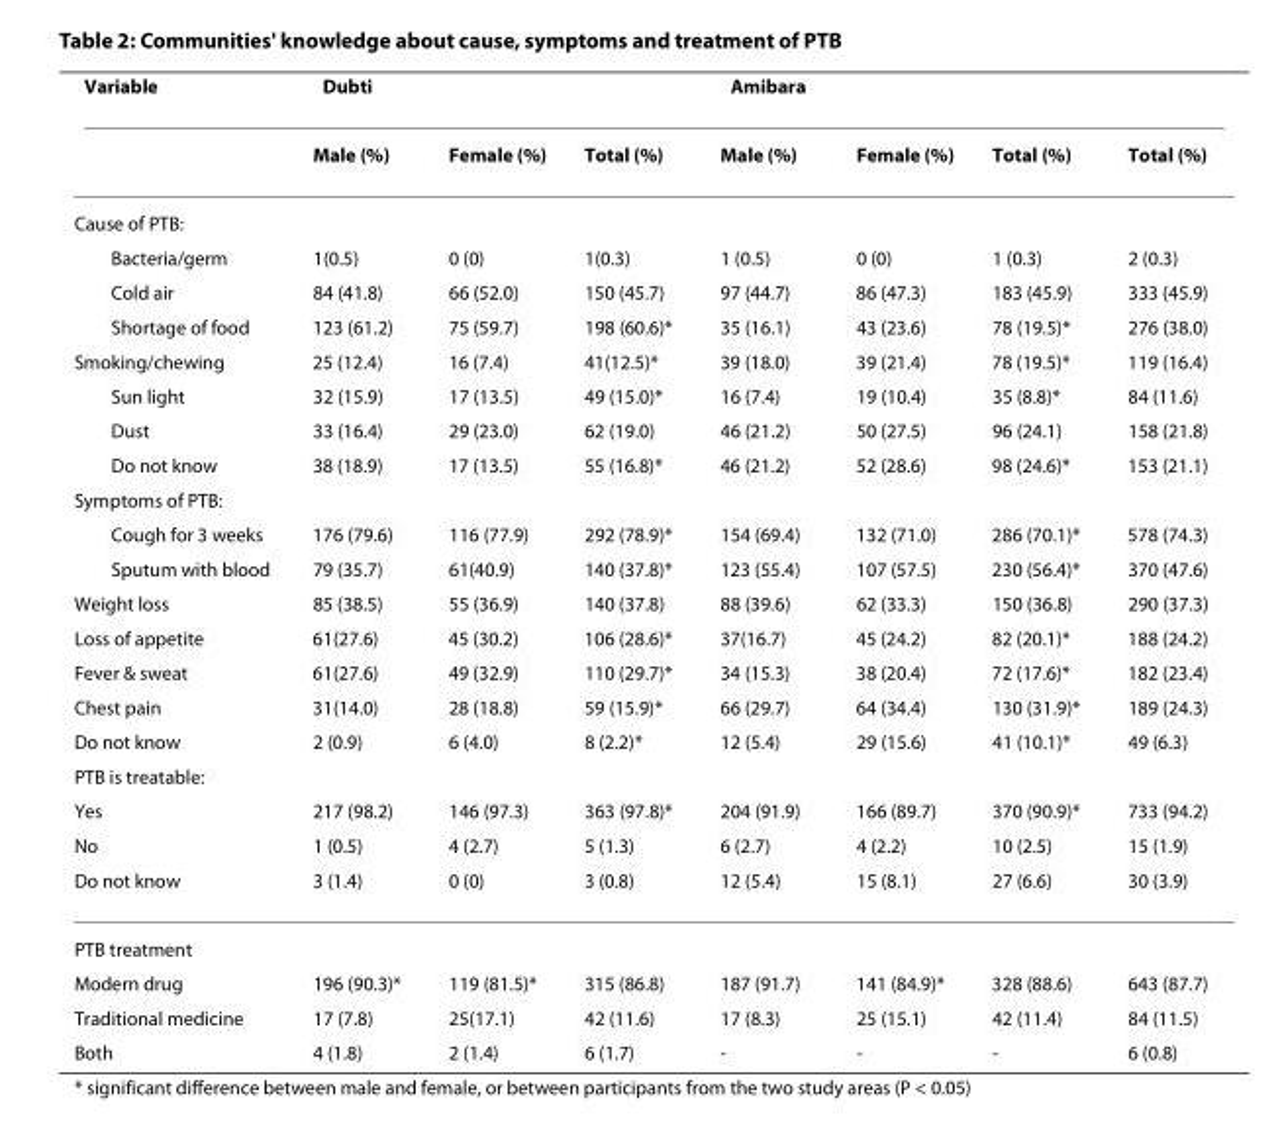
<table><thead><tr><td rowspan="2">Variable</td><td colspan="3">Dubti</td><td colspan="3">Amibara</td><td rowspan="2">Total (%)</td></tr><tr><td>Male (%)</td><td>Female (%)</td><td>Total (%)</td><td>Male (%)</td><td>Female (%)</td><td>Total (%)</td></tr></thead><tbody><tr><td colspan="8">Cause of PTB:</td></tr><tr><td>Bacteria/germ</td><td>1(0.5)</td><td>0 (0)</td><td>1(0.3)</td><td>1 (0.5)</td><td>0 (0)</td><td>1 (0.3)</td><td>2 (0.3)</td></tr><tr><td>Cold air</td><td>84 (41.8)</td><td>66 (52.0)</td><td>150 (45.7)</td><td>97 (44.7)</td><td>86 (47.3)</td><td>183 (45.9)</td><td>333 (45.9)</td></tr><tr><td>Shortage of food</td><td>123 (61.2)</td><td>75 (59.7)</td><td>198 (60.6)*</td><td>35 (16.1)</td><td>43 (23.6)</td><td>78 (19.5)*</td><td>276 (38.0)</td></tr><tr><td>Smoking/chewing</td><td>25 (12.4)</td><td>16 (7.4)</td><td>41(12.5)*</td><td>39 (18.0)</td><td>39 (21.4)</td><td>78 (19.5)*</td><td>119 (16.4)</td></tr><tr><td>Sun light</td><td>32 (15.9)</td><td>17 (13.5)</td><td>49 (15.0)*</td><td>16 (7.4)</td><td>19 (10.4)</td><td>35 (8.8)*</td><td>84 (11.6)</td></tr><tr><td>Dust</td><td>33 (16.4)</td><td>29 (23.0)</td><td>62 (19.0)</td><td>46 (21.2)</td><td>50 (27.5)</td><td>96 (24.1)</td><td>158 (21.8)</td></tr><tr><td>Do not know</td><td>38 (18.9)</td><td>17 (13.5)</td><td>55 (16.8)*</td><td>46 (21.2)</td><td>52 (28.6)</td><td>98 (24.6)*</td><td>153 (21.1)</td></tr><tr><td colspan="8">Symptoms of PTB:</td></tr><tr><td>Cough for 3 weeks</td><td>176 (79.6)</td><td>116 (77.9)</td><td>292 (78.9)*</td><td>154 (69.4)</td><td>132 (71.0)</td><td>286 (70.1)*</td><td>578 (74.3)</td></tr><tr><td>Sputum with blood</td><td>79 (35.7)</td><td>61(40.9)</td><td>140 (37.8)*</td><td>123 (55.4)</td><td>107 (57.5)</td><td>230 (56.4)*</td><td>370 (47.6)</td></tr><tr><td>Weight loss</td><td>85 (38.5)</td><td>55 (36.9)</td><td>140 (37.8)</td><td>88 (39.6)</td><td>62 (33.3)</td><td>150 (36.8)</td><td>290 (37.3)</td></tr><tr><td>Loss of appetite</td><td>61(27.6)</td><td>45 (30.2)</td><td>106 (28.6)*</td><td>37(16.7)</td><td>45 (24.2)</td><td>82 (20.1)*</td><td>188 (24.2)</td></tr><tr><td>Fever &amp; sweat</td><td>61(27.6)</td><td>49 (32.9)</td><td>110 (29.7)*</td><td>34 (15.3)</td><td>38 (20.4)</td><td>72 (17.6)*</td><td>182 (23.4)</td></tr><tr><td>Chest pain</td><td>31(14.0)</td><td>28 (18.8)</td><td>59 (15.9)*</td><td>66 (29.7)</td><td>64 (34.4)</td><td>130 (31.9)*</td><td>189 (24.3)</td></tr><tr><td>Do not know</td><td>2 (0.9)</td><td>6 (4.0)</td><td>8 (2.2)*</td><td>12 (5.4)</td><td>29 (15.6)</td><td>41 (10.1)*</td><td>49 (6.3)</td></tr><tr><td colspan="8">PTB is treatable:</td></tr><tr><td>Yes</td><td>217 (98.2)</td><td>146 (97.3)</td><td>363 (97.8)*</td><td>204 (91.9)</td><td>166 (89.7)</td><td>370 (90.9)*</td><td>733 (94.2)</td></tr><tr><td>No</td><td>1 (0.5)</td><td>4 (2.7)</td><td>5 (1.3)</td><td>6 (2.7)</td><td>4 (2.2)</td><td>10 (2.5)</td><td>15 (1.9)</td></tr><tr><td>Do not know</td><td>3 (1.4)</td><td>0 (0)</td><td>3 (0.8)</td><td>12 (5.4)</td><td>15 (8.1)</td><td>27 (6.6)</td><td>30 (3.9)</td></tr><tr><td colspan="8">PTB treatment</td></tr><tr><td>Modern drug</td><td>196 (90.3)*</td><td>119 (81.5)*</td><td>315 (86.8)</td><td>187 (91.7)</td><td>141 (84.9)*</td><td>328 (88.6)</td><td>643 (87.7)</td></tr><tr><td>Traditional medicine</td><td>17 (7.8)</td><td>25(17.1)</td><td>42 (11.6)</td><td>17 (8.3)</td><td>25 (15.1)</td><td>42 (11.4)</td><td>84 (11.5)</td></tr><tr><td>Both</td><td>4 (1.8)</td><td>2 (1.4)</td><td>6 (1.7)</td><td>-</td><td>-</td><td>-</td><td>6 (0.8)</td></tr></tbody></table>